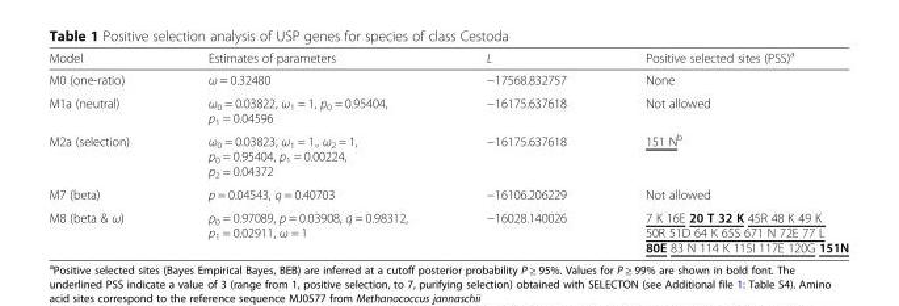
<table><thead><tr><td>Model</td><td>Estimates of parameters</td><td>L</td><td>Positive selected sites (PSS)<sup>a</sup></td></tr></thead><tbody><tr><td>M0 (one-ratio)</td><td>ω = 0.32480</td><td>−17568.832757</td><td>None</td></tr><tr><td>M1a (neutral)</td><td>ω<sub>0</sub> = 0.03822, ω<sub>1</sub> = 1, p<sub>0</sub> = 0.95404, p<sub>1</sub> = 0.04596</td><td>−16175.637618</td><td>Not allowed</td></tr><tr><td>M2a (selection)</td><td>ω<sub>0</sub> = 0.03823, ω<sub>1</sub> = 1., ω<sub>2</sub> = 1, p<sub>0</sub> = 0.95404, p<sub>1</sub> = 0.00224, p<sub>2</sub> = 0.04372</td><td>−16175.637618</td><td>151 N<sup>b</sup></td></tr><tr><td>M7 (beta)</td><td>p = 0.04543, q = 0.40703</td><td>−16106.206229</td><td>Not allowed</td></tr><tr><td>M8 (beta &amp; ω)</td><td>p<sub>0</sub> = 0.97089, p = 0.03908, q = 0.98312, p<sub>1</sub> = 0.02911, ω = 1</td><td>−16028.140026</td><td>7 K 16E 20 T 32 K 45R 48 K 49 K 50R 51D 64 K 65S 671 N 72E 77 L 80E 83 N 114 K 115I 117E 120G 151N</td></tr></tbody></table>